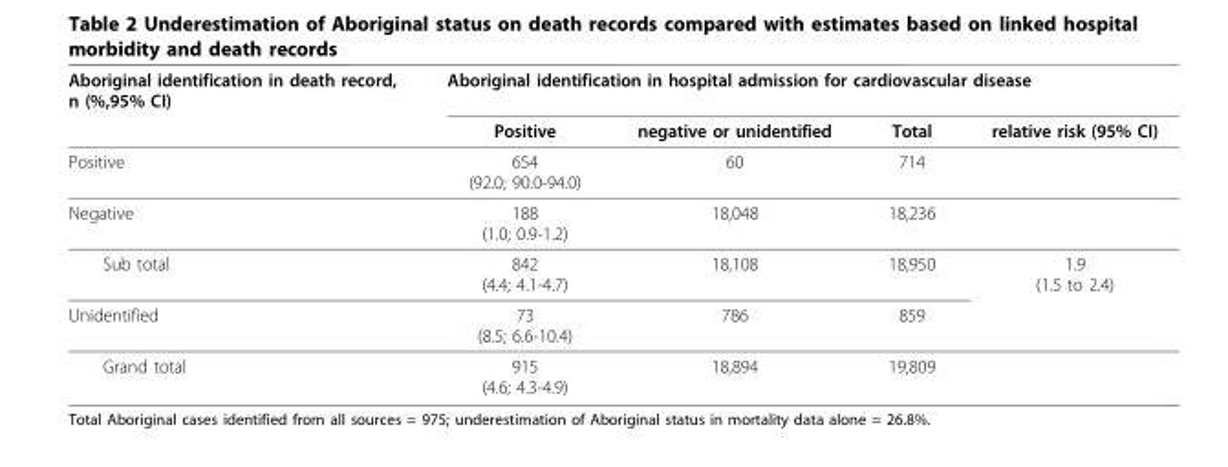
<table><thead><tr><td rowspan="2">Aboriginal identification in death record, n (%,95% CI)</td><td colspan="4">Aboriginal identification in hospital admission for cardiovascular disease</td></tr><tr><td>Positive</td><td>negative or unidentified</td><td>Total</td><td>relative risk (95% CI)</td></tr></thead><tbody><tr><td>Positive</td><td>654 (92.0; 90.0-94.0)</td><td>60</td><td>714</td><td></td></tr><tr><td>Negative</td><td>188 (1.0; 0.9-1.2)</td><td>18,048</td><td>18,236</td><td></td></tr><tr><td>Sub total</td><td>842 (4.4; 4.1-4.7)</td><td>18,108</td><td>18,950</td><td>1.9 (1.5 to 2.4)</td></tr><tr><td>Unidentified</td><td>73 (8.5; 6.6-10.4)</td><td>786</td><td>859</td><td></td></tr><tr><td>Grand total</td><td>915 (4.6; 4.3-4.9)</td><td>18,894</td><td>19,809</td><td></td></tr></tbody></table>